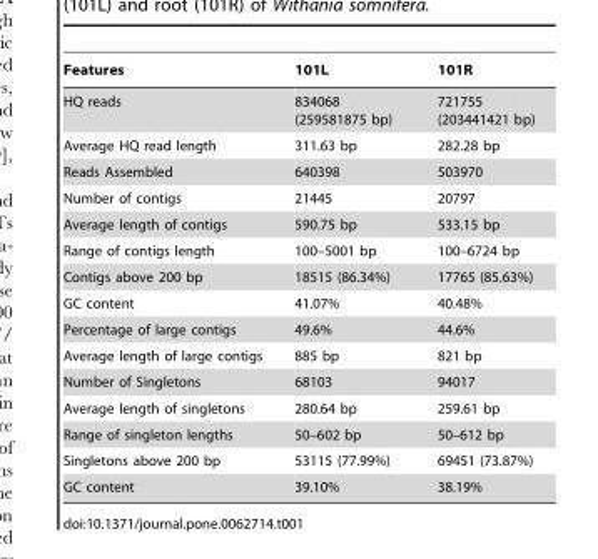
<table><thead><tr><td>Features</td><td>101L</td><td>101R</td></tr></thead><tbody><tr><td>HQ reads</td><td>834068 (259581875 bp)</td><td>721755 (203441421 bp)</td></tr><tr><td>Average HQ read length</td><td>311.63 bp</td><td>282.28 bp</td></tr><tr><td>Reads Assembled</td><td>640398</td><td>503970</td></tr><tr><td>Number of contigs</td><td>21445</td><td>20797</td></tr><tr><td>Average length of contigs</td><td>590.75 bp</td><td>533.15 bp</td></tr><tr><td>Range of contigs length</td><td>100–5001 bp</td><td>100–6724 bp</td></tr><tr><td>Contigs above 200 bp</td><td>18515 (86.34%)</td><td>17765 (85.63%)</td></tr><tr><td>GC content</td><td>41.07%</td><td>40.48%</td></tr><tr><td>Percentage of large contigs</td><td>49.6%</td><td>44.6%</td></tr><tr><td>Average length of large contigs</td><td>885 bp</td><td>821 bp</td></tr><tr><td>Number of Singletons</td><td>68103</td><td>94017</td></tr><tr><td>Average length of singletons</td><td>280.64 bp</td><td>259.61 bp</td></tr><tr><td>Range of singleton lengths</td><td>50–602 bp</td><td>50–612 bp</td></tr><tr><td>Singletons above 200 bp</td><td>53115 (77.99%)</td><td>69451 (73.87%)</td></tr><tr><td>GC content</td><td>39.10%</td><td>38.19%</td></tr></tbody></table>